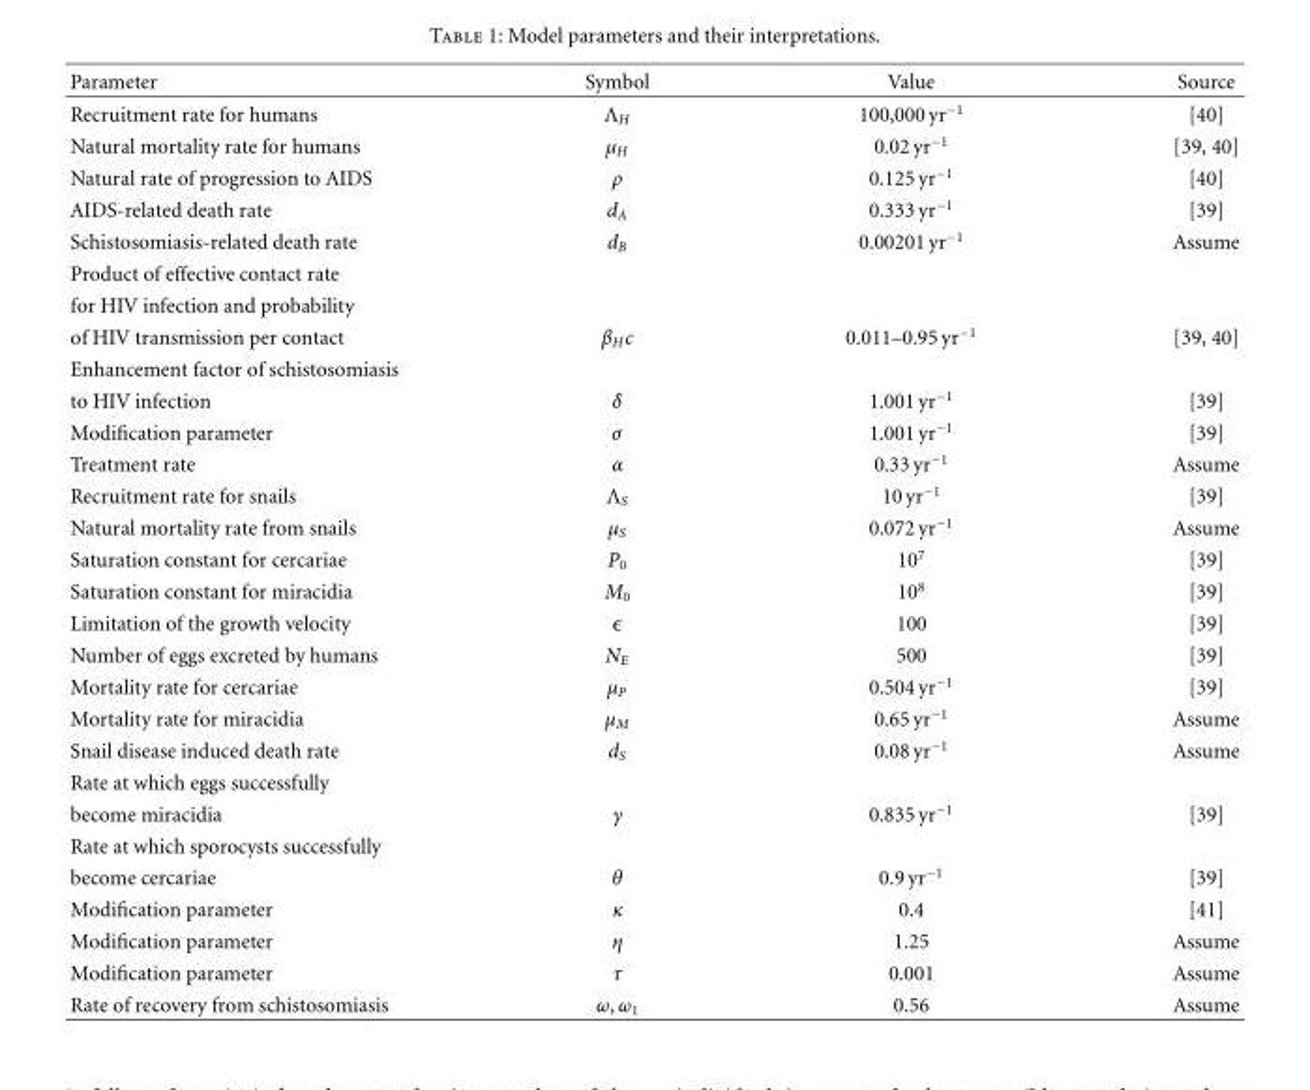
<table><thead><tr><td>Parameter</td><td>Symbol</td><td>Value</td><td>Source</td></tr></thead><tbody><tr><td>Recruitment rate for humans</td><td>Λ<sub>H</sub></td><td>100,000 yr<sup>−1</sup></td><td>[40]</td></tr><tr><td>Natural mortality rate for humans</td><td>μ<sub>H</sub></td><td>0.02 yr<sup>−1</sup></td><td>[39, 40]</td></tr><tr><td>Natural rate of progression to AIDS</td><td>ρ</td><td>0.125 yr<sup>−1</sup></td><td>[40]</td></tr><tr><td>AIDS-related death rate</td><td>d<sub>A</sub></td><td>0.333 yr<sup>−1</sup></td><td>[39]</td></tr><tr><td>Schistosomiasis-related death rate</td><td>d<sub>B</sub></td><td>0.00201 yr<sup>−1</sup></td><td>Assume</td></tr><tr><td colspan="4">Product of effective contact rate</td></tr><tr><td colspan="4">for HIV infection and probability</td></tr><tr><td>of HIV transmission per contact</td><td>β<sub>H</sub>c</td><td>0.011–0.95 yr<sup>−1</sup></td><td>[39, 40]</td></tr><tr><td colspan="4">Enhancement factor of schistosomiasis</td></tr><tr><td>to HIV infection</td><td>δ</td><td>1.001 yr<sup>−1</sup></td><td>[39]</td></tr><tr><td>Modification parameter</td><td>σ</td><td>1.001 yr<sup>−1</sup></td><td>[39]</td></tr><tr><td>Treatment rate</td><td>α</td><td>0.33 yr<sup>−1</sup></td><td>Assume</td></tr><tr><td>Recruitment rate for snails</td><td>Λ<sub>S</sub></td><td>10 yr<sup>−1</sup></td><td>[39]</td></tr><tr><td>Natural mortality rate from snails</td><td>μ<sub>S</sub></td><td>0.072 yr<sup>−1</sup></td><td>Assume</td></tr><tr><td>Saturation constant for cercariae</td><td>P<sub>0</sub></td><td>10<sup>7</sup></td><td>[39]</td></tr><tr><td>Saturation constant for miracidia</td><td>M<sub>0</sub></td><td>10<sup>8</sup></td><td>[39]</td></tr><tr><td>Limitation of the growth velocity</td><td>ϵ</td><td>100</td><td>[39]</td></tr><tr><td>Number of eggs excreted by humans</td><td>N<sub>E</sub></td><td>500</td><td>[39]</td></tr><tr><td>Mortality rate for cercariae</td><td>μ<sub>P</sub></td><td>0.504 yr<sup>−1</sup></td><td>[39]</td></tr><tr><td>Mortality rate for miracidia</td><td>μ<sub>M</sub></td><td>0.65 yr<sup>−1</sup></td><td>Assume</td></tr><tr><td>Snail disease induced death rate</td><td>d<sub>S</sub></td><td>0.08 yr<sup>−1</sup></td><td>Assume</td></tr><tr><td colspan="4">Rate at which eggs successfully</td></tr><tr><td>become miracidia</td><td>γ</td><td>0.835 yr<sup>−1</sup></td><td>[39]</td></tr><tr><td colspan="4">Rate at which sporocysts successfully</td></tr><tr><td>become cercariae</td><td>θ</td><td>0.9 yr<sup>−1</sup></td><td>[39]</td></tr><tr><td>Modification parameter</td><td>κ</td><td>0.4</td><td>[41]</td></tr><tr><td>Modification parameter</td><td>η</td><td>1.25</td><td>Assume</td></tr><tr><td>Modification parameter</td><td>τ</td><td>0.001</td><td>Assume</td></tr><tr><td>Rate of recovery from schistosomiasis</td><td>ω,ω<sub>1</sub></td><td>0.56</td><td>Assume</td></tr></tbody></table>